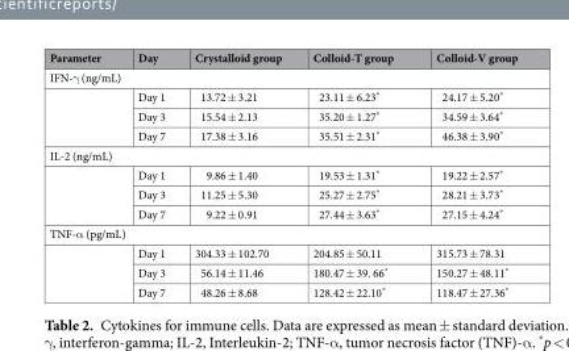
<table><thead><tr><td>Parameter</td><td>Day</td><td>Crystalloid group</td><td>Colloid-T group</td><td>Colloid-V group</td></tr></thead><tbody><tr><td colspan="5">IFN-γ (ng/mL)</td></tr><tr><td rowspan="3"></td><td>Day 1</td><td>13.72 ± 3.21</td><td>23.11 ± 6.23*</td><td>24.17 ± 5.20*</td></tr><tr><td>Day 3</td><td>15.54 ± 2.13</td><td>35.20 ± 1.27*</td><td>34.59 ± 3.64*</td></tr><tr><td>Day 7</td><td>17.38 ± 3.16</td><td>35.51 ± 2.31*</td><td>46.38 ± 3.90*</td></tr><tr><td colspan="5">IL-2 (ng/mL)</td></tr><tr><td rowspan="3"></td><td>Day 1</td><td>9.86 ± 1.40</td><td>19.53 ± 1.31*</td><td>19.22 ± 2.57*</td></tr><tr><td>Day 3</td><td>11.25 ± 5.30</td><td>25.27 ± 2.75*</td><td>28.21 ± 3.73*</td></tr><tr><td>Day 7</td><td>9.22 ± 0.91</td><td>27.44 ± 3.63*</td><td>27.15 ± 4.24*</td></tr><tr><td colspan="5">TNF-α (pg/mL)</td></tr><tr><td rowspan="3"></td><td>Day 1</td><td>304.33 ± 102.70</td><td>204.85 ± 50.11</td><td>315.73 ± 78.31</td></tr><tr><td>Day 3</td><td>56.14 ± 11.46</td><td>180.47 ± 39. 66*</td><td>150.27 ± 48.11*</td></tr><tr><td>Day 7</td><td>48.26 ± 8.68</td><td>128.42 ± 22.10*</td><td>118.47 ± 27.36*</td></tr></tbody></table>